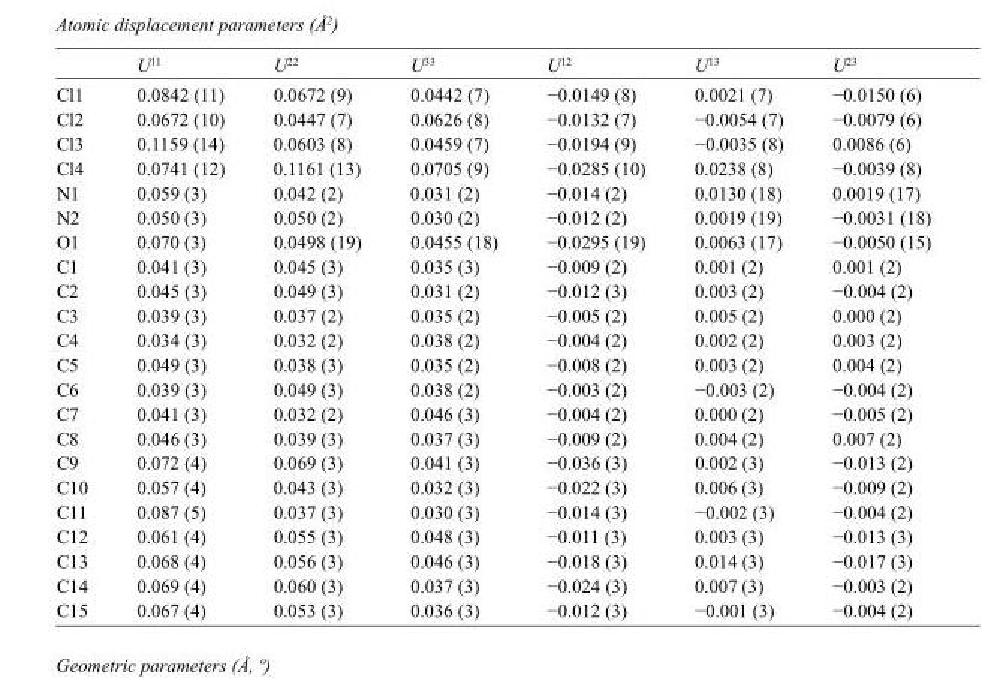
<table><thead><tr><td></td><td>U<sup>11</sup></td><td>U<sup>22</sup></td><td>U<sup>33</sup></td><td>U<sup>12</sup></td><td>U<sup>13</sup></td><td>U<sup>23</sup></td></tr></thead><tbody><tr><td>Cl1</td><td>0.0842 (11)</td><td>0.0672 (9)</td><td>0.0442 (7)</td><td>−0.0149 (8)</td><td>0.0021 (7)</td><td>−0.0150 (6)</td></tr><tr><td>Cl2</td><td>0.0672 (10)</td><td>0.0447 (7)</td><td>0.0626 (8)</td><td>−0.0132 (7)</td><td>−0.0054 (7)</td><td>−0.0079 (6)</td></tr><tr><td>Cl3</td><td>0.1159 (14)</td><td>0.0603 (8)</td><td>0.0459 (7)</td><td>−0.0194 (9)</td><td>−0.0035 (8)</td><td>0.0086 (6)</td></tr><tr><td>Cl4</td><td>0.0741 (12)</td><td>0.1161 (13)</td><td>0.0705 (9)</td><td>−0.0285 (10)</td><td>0.0238 (8)</td><td>−0.0039 (8)</td></tr><tr><td>N1</td><td>0.059 (3)</td><td>0.042 (2)</td><td>0.031 (2)</td><td>−0.014 (2)</td><td>0.0130 (18)</td><td>0.0019 (17)</td></tr><tr><td>N2</td><td>0.050 (3)</td><td>0.050 (2)</td><td>0.030 (2)</td><td>−0.012 (2)</td><td>0.0019 (19)</td><td>−0.0031 (18)</td></tr><tr><td>O1</td><td>0.070 (3)</td><td>0.0498 (19)</td><td>0.0455 (18)</td><td>−0.0295 (19)</td><td>0.0063 (17)</td><td>−0.0050 (15)</td></tr><tr><td>C1</td><td>0.041 (3)</td><td>0.045 (3)</td><td>0.035 (3)</td><td>−0.009 (2)</td><td>0.001 (2)</td><td>0.001 (2)</td></tr><tr><td>C2</td><td>0.045 (3)</td><td>0.049 (3)</td><td>0.031 (2)</td><td>−0.012 (3)</td><td>0.003 (2)</td><td>−0.004 (2)</td></tr><tr><td>C3</td><td>0.039 (3)</td><td>0.037 (2)</td><td>0.035 (2)</td><td>−0.005 (2)</td><td>0.005 (2)</td><td>0.000 (2)</td></tr><tr><td>C4</td><td>0.034 (3)</td><td>0.032 (2)</td><td>0.038 (2)</td><td>−0.004 (2)</td><td>0.002 (2)</td><td>0.003 (2)</td></tr><tr><td>C5</td><td>0.049 (3)</td><td>0.038 (3)</td><td>0.035 (2)</td><td>−0.008 (2)</td><td>0.003 (2)</td><td>0.004 (2)</td></tr><tr><td>C6</td><td>0.039 (3)</td><td>0.049 (3)</td><td>0.038 (2)</td><td>−0.003 (2)</td><td>−0.003 (2)</td><td>−0.004 (2)</td></tr><tr><td>C7</td><td>0.041 (3)</td><td>0.032 (2)</td><td>0.046 (3)</td><td>−0.004 (2)</td><td>0.000 (2)</td><td>−0.005 (2)</td></tr><tr><td>C8</td><td>0.046 (3)</td><td>0.039 (3)</td><td>0.037 (3)</td><td>−0.009 (2)</td><td>0.004 (2)</td><td>0.007 (2)</td></tr><tr><td>C9</td><td>0.072 (4)</td><td>0.069 (3)</td><td>0.041 (3)</td><td>−0.036 (3)</td><td>0.002 (3)</td><td>−0.013 (2)</td></tr><tr><td>C10</td><td>0.057 (4)</td><td>0.043 (3)</td><td>0.032 (3)</td><td>−0.022 (3)</td><td>0.006 (3)</td><td>−0.009 (2)</td></tr><tr><td>C11</td><td>0.087 (5)</td><td>0.037 (3)</td><td>0.030 (3)</td><td>−0.014 (3)</td><td>−0.002 (3)</td><td>−0.004 (2)</td></tr><tr><td>C12</td><td>0.061 (4)</td><td>0.055 (3)</td><td>0.048 (3)</td><td>−0.011 (3)</td><td>0.003 (3)</td><td>−0.013 (3)</td></tr><tr><td>C13</td><td>0.068 (4)</td><td>0.056 (3)</td><td>0.046 (3)</td><td>−0.018 (3)</td><td>0.014 (3)</td><td>−0.017 (3)</td></tr><tr><td>C14</td><td>0.069 (4)</td><td>0.060 (3)</td><td>0.037 (3)</td><td>−0.024 (3)</td><td>0.007 (3)</td><td>−0.003 (2)</td></tr><tr><td>C15</td><td>0.067 (4)</td><td>0.053 (3)</td><td>0.036 (3)</td><td>−0.012 (3)</td><td>−0.001 (3)</td><td>−0.004 (2)</td></tr></tbody></table>